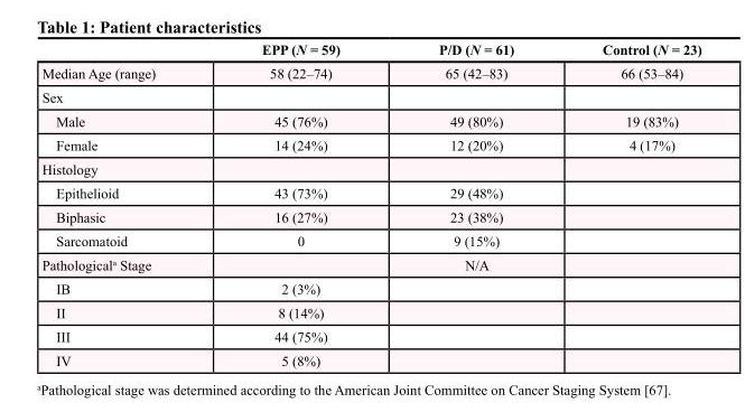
<table><thead><tr><td></td><td>EPP (N = 59)</td><td>P/D (N = 61)</td><td>Control (N = 23)</td></tr></thead><tbody><tr><td>Median Age (range)</td><td>58 (22–74)</td><td>65 (42–83)</td><td>66 (53–84)</td></tr><tr><td colspan="4">Sex</td></tr><tr><td>Male</td><td>45 (76%)</td><td>49 (80%)</td><td>19 (83%)</td></tr><tr><td>Female</td><td>14 (24%)</td><td>12 (20%)</td><td>4 (17%)</td></tr><tr><td colspan="4">Histology</td></tr><tr><td>Epithelioid</td><td>43 (73%)</td><td>29 (48%)</td><td></td></tr><tr><td>Biphasic</td><td>16 (27%)</td><td>23 (38%)</td><td></td></tr><tr><td>Sarcomatoid</td><td>0</td><td>9 (15%)</td><td></td></tr><tr><td>Pathological<sup>a</sup> Stage</td><td></td><td>N/A</td><td></td></tr><tr><td>IB</td><td>2 (3%)</td><td></td><td></td></tr><tr><td>II</td><td>8 (14%)</td><td></td><td></td></tr><tr><td>III</td><td>44 (75%)</td><td></td><td></td></tr><tr><td>IV</td><td>5 (8%)</td><td></td><td></td></tr></tbody></table>